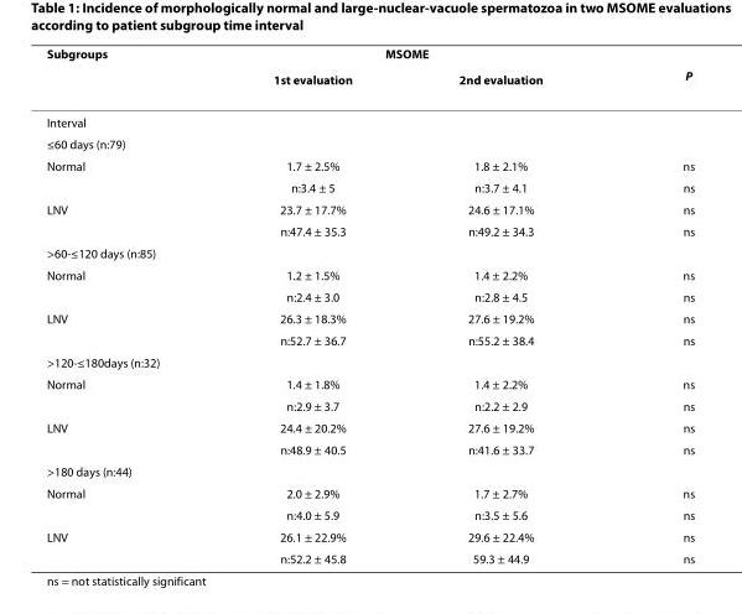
<table><thead><tr><td rowspan="2">Subgroups</td><td colspan="2">MSOME</td><td rowspan="2">P</td></tr><tr><td>1<sup>st</sup> evaluation</td><td>2<sup>nd</sup> evaluation</td></tr></thead><tbody><tr><td colspan="4">Interval</td></tr><tr><td colspan="4">≤60 days (n:79)</td></tr><tr><td rowspan="2">Normal</td><td>1.7 ± 2.5%</td><td>1.8 ± 2.1%</td><td>ns</td></tr><tr><td>n:3.4 ± 5</td><td>n:3.7 ± 4.1</td><td>ns</td></tr><tr><td rowspan="2">LNV</td><td>23.7 ± 17.7%</td><td>24.6 ± 17.1%</td><td>ns</td></tr><tr><td>n:47.4 ± 35.3</td><td>n:49.2 ± 34.3</td><td>ns</td></tr><tr><td colspan="4">&gt;60-≤120 days (n:85)</td></tr><tr><td rowspan="2">Normal</td><td>1.2 ± 1.5%</td><td>1.4 ± 2.2%</td><td>ns</td></tr><tr><td>n:2.4 ± 3.0</td><td>n:2.8 ± 4.5</td><td>ns</td></tr><tr><td rowspan="2">LNV</td><td>26.3 ± 18.3%</td><td>27.6 ± 19.2%</td><td>ns</td></tr><tr><td>n:52.7 ± 36.7</td><td>n:55.2 ± 38.4</td><td>ns</td></tr><tr><td colspan="4">&gt;120-≤180days (n:32)</td></tr><tr><td rowspan="2">Normal</td><td>1.4 ± 1.8%</td><td>1.4 ± 2.2%</td><td>ns</td></tr><tr><td>n:2.9 ± 3.7</td><td>n:2.2 ± 2.9</td><td>ns</td></tr><tr><td rowspan="2">LNV</td><td>24.4 ± 20.2%</td><td>27.6 ± 19.2%</td><td>ns</td></tr><tr><td>n:48.9 ± 40.5</td><td>n:41.6 ± 33.7</td><td>ns</td></tr><tr><td colspan="4">&gt;180 days (n:44)</td></tr><tr><td rowspan="2">Normal</td><td>2.0 ± 2.9%</td><td>1.7 ± 2.7%</td><td>ns</td></tr><tr><td>n:4.0 ± 5.9</td><td>n:3.5 ± 5.6</td><td>ns</td></tr><tr><td rowspan="2">LNV</td><td>26.1 ± 22.9%</td><td>29.6 ± 22.4%</td><td>ns</td></tr><tr><td>n:52.2 ± 45.8</td><td>59.3 ± 44.9</td><td>ns</td></tr></tbody></table>